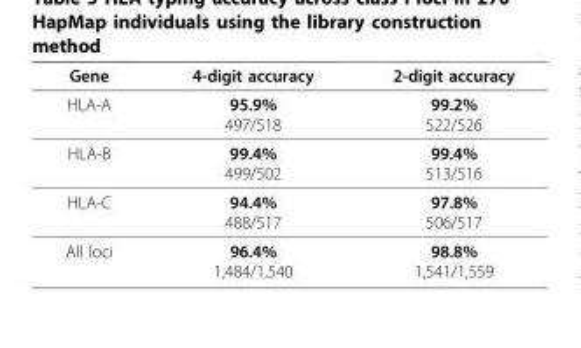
<table><thead><tr><td>Gene</td><td>4-digit accuracy</td><td>2-digit accuracy</td></tr></thead><tbody><tr><td>HLA-A</td><td>95.9% 497/518</td><td>99.2% 522/526</td></tr><tr><td>HLA-B</td><td>99.4% 499/502</td><td>99.4% 513/516</td></tr><tr><td>HLA-C</td><td>94.4% 488/517</td><td>97.8% 506/517</td></tr><tr><td>All loci</td><td>96.4% 1,484/1,540</td><td>98.8% 1,541/1,559</td></tr></tbody></table>